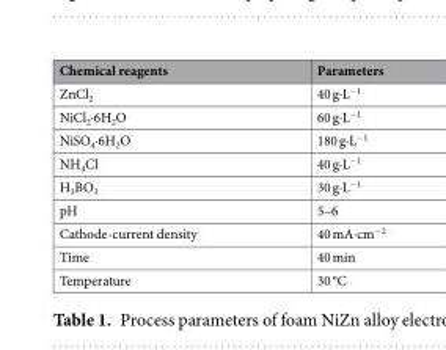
<table><thead><tr><td>Chemical reagents</td><td>Parameters</td></tr></thead><tbody><tr><td>ZnCl<sub>2</sub></td><td>40 g·L<sup>−1</sup></td></tr><tr><td>NiCl<sub>2</sub>·6H<sub>2</sub>O</td><td>60 g·L<sup>−1</sup></td></tr><tr><td>NiSO<sub>4</sub>·6H<sub>2</sub>O</td><td>180 g·L<sup>−1</sup></td></tr><tr><td>NH<sub>4</sub>Cl</td><td>40 g·L<sup>−1</sup></td></tr><tr><td>H<sub>3</sub>BO<sub>3</sub></td><td>30 g·L<sup>−1</sup></td></tr><tr><td>pH</td><td>5–6</td></tr><tr><td>Cathode-current density</td><td>40 mA·cm<sup>−2</sup></td></tr><tr><td>Time</td><td>40 min</td></tr><tr><td>Temperature</td><td>30 °C</td></tr></tbody></table>